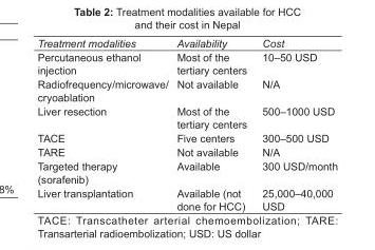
<table><tbody><tr><td>Treatment modalities</td><td>Availability</td><td>Cost</td></tr><tr><td>Percutaneous ethanol injection</td><td>Most of the tertiary centers</td><td>10–50 USD</td></tr><tr><td>Radiofrequency/microwave/ cryoablation</td><td>Not available</td><td>N/A</td></tr><tr><td>Liver resection</td><td>Most of the tertiary centers</td><td>500–1000 USD</td></tr><tr><td>TACE</td><td>Five centers</td><td>300–500 USD</td></tr><tr><td>TARE</td><td>Not available</td><td>N/A</td></tr><tr><td>Targeted therapy (sorafenib)</td><td>Available</td><td>300 USD/month</td></tr><tr><td>Liver transplantation</td><td>Available (not done for HCC)</td><td>25,000–40,000 USD</td></tr></tbody></table>